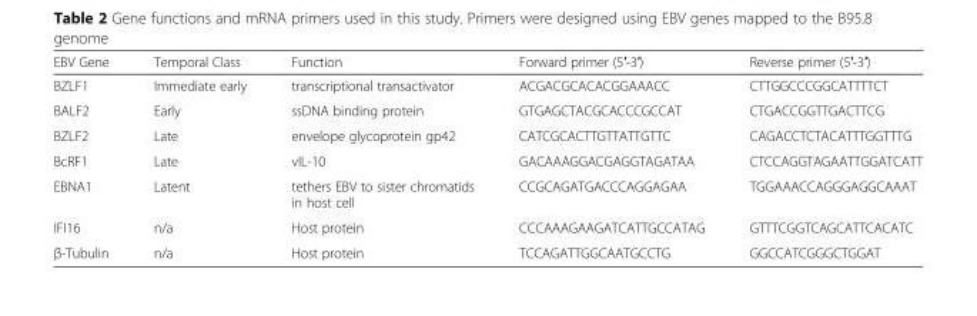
<table><thead><tr><td>EBV Gene</td><td>Temporal Class</td><td>Function</td><td>Forward primer (5′-3′)</td><td>Reverse primer (5′-3′)</td></tr></thead><tbody><tr><td>BZLF1</td><td>Immediate early</td><td>transcriptional transactivator</td><td>ACGACGCACACGGAAACC</td><td>CTTGGCCCGGCATTTTCT</td></tr><tr><td>BALF2</td><td>Early</td><td>ssDNA binding protein</td><td>GTGAGCTACGCACCCGCCAT</td><td>CTGACCGGTTGACTTCG</td></tr><tr><td>BZLF2</td><td>Late</td><td>envelope glycoprotein gp42</td><td>CATCGCACTTGTTATTGTTC</td><td>CAGACCTCTACATTTGGTTTG</td></tr><tr><td>BcRF1</td><td>Late</td><td>vIL-10</td><td>GACAAAGGACGAGGTAGATAA</td><td>CTCCAGGTAGAATTGGATCATT</td></tr><tr><td>EBNA1</td><td>Latent</td><td>tethers EBV to sister chromatids in host cell</td><td>CCGCAGATGACCCAGGAGAA</td><td>TGGAAACCAGGGAGGCAAAT</td></tr><tr><td>IFI16</td><td>n/a</td><td>Host protein</td><td>CCCAAAGAAGATCATTGCCATAG</td><td>GTTTCGGTCAGCATTCACATC</td></tr><tr><td>β-Tubulin</td><td>n/a</td><td>Host protein</td><td>TCCAGATTGGCAATGCCTG</td><td>GGCCATCGGGCTGGAT</td></tr></tbody></table>